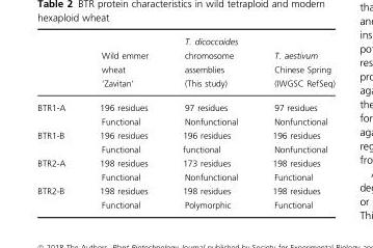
<table><thead><tr><td></td><td>Wild emmer wheat ‘Zavitan’</td><td>T. dicoccoides chromosome assemblies (This study)</td><td>T. aestivum Chinese Spring (IWGSC RefSeq)</td></tr></thead><tbody><tr><td rowspan="2">BTR1-A</td><td>196 residues</td><td>97 residues</td><td>97 residues</td></tr><tr><td>Functional</td><td>Nonfunctional</td><td>Nonfunctional</td></tr><tr><td rowspan="2">BTR1-B</td><td>196 residues</td><td rowspan="2">196 residues functional</td><td>196 residues</td></tr><tr><td>Functional</td><td>Nonfunctional</td></tr><tr><td rowspan="2">BTR2-A</td><td>198 residues</td><td>173 residues</td><td>198 residues</td></tr><tr><td>Functional</td><td>Nonfunctional</td><td>Functional</td></tr><tr><td rowspan="2">BTR2-B</td><td>198 residues</td><td>198 residues</td><td>198 residues</td></tr><tr><td>Functional</td><td>Polymorphic</td><td>Functional</td></tr></tbody></table>